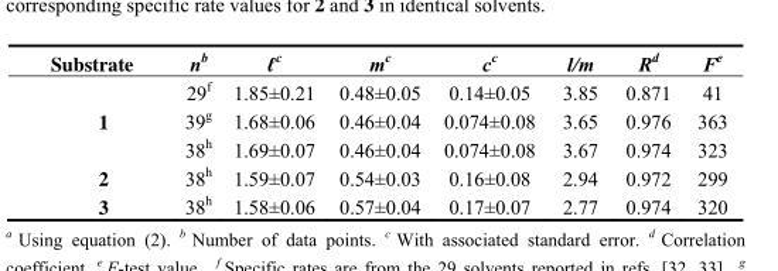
<table><thead><tr><td>Substrate</td><td>n<sup>b</sup></td><td>ℓ<sup>c</sup></td><td>m<sup>c</sup></td><td>c<sup>c</sup></td><td>l/m</td><td>R<sup>d</sup></td><td>F<sup>e</sup></td></tr></thead><tbody><tr><td></td><td>29<sup>f</sup></td><td>1.85±0.21</td><td>0.48±0.05</td><td>0.14±0.05</td><td>3.85</td><td>0.871</td><td>41</td></tr><tr><td rowspan="2">1</td><td>39<sup>g</sup></td><td>1.68±0.06</td><td>0.46±0.04</td><td>0.074±0.08</td><td>3.65</td><td>0.976</td><td>363</td></tr><tr><td>38<sup>h</sup></td><td>1.69±0.07</td><td>0.46±0.04</td><td>0.074±0.08</td><td>3.67</td><td>0.974</td><td>323</td></tr><tr><td>2</td><td>38<sup>h</sup></td><td>1.59±0.07</td><td>0.54±0.03</td><td>0.16±0.08</td><td>2.94</td><td>0.972</td><td>299</td></tr><tr><td>3</td><td>38<sup>h</sup></td><td>1.58±0.06</td><td>0.57±0.04</td><td>0.17±0.07</td><td>2.77</td><td>0.974</td><td>320</td></tr></tbody></table>